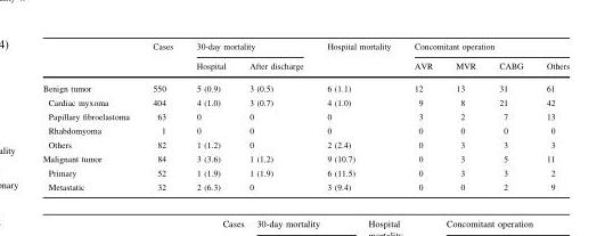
<table><thead><tr><td rowspan="2"></td><td rowspan="2">Cases</td><td colspan="2">30-day mortality</td><td rowspan="2">Hospital mortality</td><td colspan="4">Concomitant operation</td></tr><tr><td>Hospital</td><td>After discharge</td><td>AVR</td><td>MVR</td><td>CABG</td><td>Others</td></tr></thead><tbody><tr><td>Benign tumor</td><td>550</td><td>5 (0.9)</td><td>3 (0.5)</td><td>6 (1.1)</td><td>12</td><td>13</td><td>31</td><td>61</td></tr><tr><td>Cardiac myxoma</td><td>404</td><td>4 (1.0)</td><td>3 (0.7)</td><td>4 (1.0)</td><td>9</td><td>8</td><td>21</td><td>42</td></tr><tr><td>Papillary fibroelastoma</td><td>63</td><td>0</td><td>0</td><td>0</td><td>3</td><td>2</td><td>7</td><td>13</td></tr><tr><td>Rhabdomyoma</td><td>1</td><td>0</td><td>0</td><td>0</td><td>0</td><td>0</td><td>0</td><td>0</td></tr><tr><td>Others</td><td>82</td><td>1 (1.2)</td><td>0</td><td>2 (2.4)</td><td>0</td><td>3</td><td>3</td><td>3</td></tr><tr><td>Malignant tumor</td><td>84</td><td>3 (3.6)</td><td>1 (1.2)</td><td>9 (10.7)</td><td>0</td><td>3</td><td>5</td><td>11</td></tr><tr><td>Primary</td><td>52</td><td>1 (1.9)</td><td>1 (1.9)</td><td>6 (11.5)</td><td>0</td><td>3</td><td>3</td><td>2</td></tr><tr><td>Metastatic</td><td>32</td><td>2 (6.3)</td><td>0</td><td>3 (9.4)</td><td>0</td><td>0</td><td>2</td><td>9</td></tr></tbody></table>